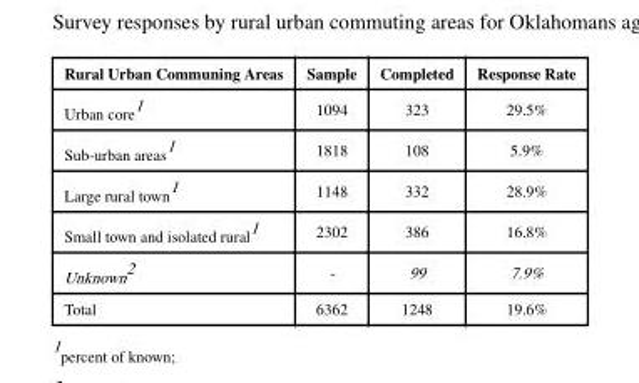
<table><thead><tr><td>Rural Urban Communing Areas</td><td>Sample</td><td>Completed</td><td>Response Rate</td></tr></thead><tbody><tr><td>Urban core<sup>1</sup></td><td>1094</td><td>323</td><td>29.5%</td></tr><tr><td>Sub-urban areas<sup>1</sup></td><td>1818</td><td>108</td><td>5.9%</td></tr><tr><td>Large rural town<sup>1</sup></td><td>1148</td><td>332</td><td>28.9%</td></tr><tr><td>Small town and isolated rural<sup>1</sup></td><td>2302</td><td>386</td><td>16.8%</td></tr><tr><td>Unknown<sup>2</sup></td><td>-</td><td>99</td><td>7.9%</td></tr><tr><td>Total</td><td>6362</td><td>1248</td><td>19.6%</td></tr></tbody></table>